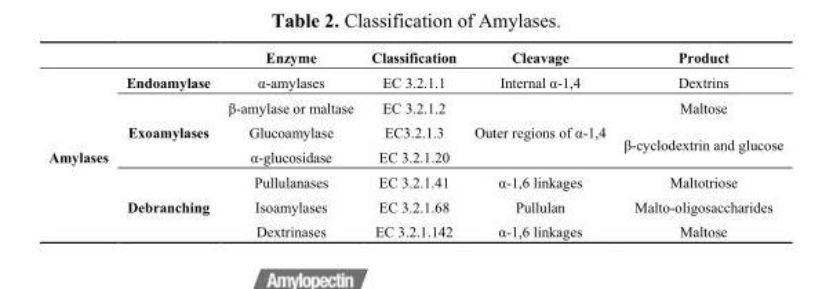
<table><thead><tr><td></td><td></td><td>Enzyme</td><td>Classification</td><td>Cleavage</td><td>Product</td></tr></thead><tbody><tr><td rowspan="7">Amylases</td><td>Endoamylase</td><td>α-amylases</td><td>EC 3.2.1.1</td><td>Internal α-1,4</td><td>Dextrins</td></tr><tr><td rowspan="3">Exoamylases</td><td>β-amylase or maltase</td><td>EC 3.2.1.2</td><td rowspan="3">Outer regions of α-1,4</td><td>Maltose</td></tr><tr><td>Glucoamylase</td><td>EC3.2.1.3</td><td rowspan="2">β-cyclodextrin and glucose</td></tr><tr><td>α-glucosidase</td><td>EC 3.2.1.20</td></tr><tr><td rowspan="3">Debranching</td><td>Pullulanases</td><td>EC 3.2.1.41</td><td>α-1,6 linkages</td><td>Maltotriose</td></tr><tr><td>Isoamylases</td><td>EC 3.2.1.68</td><td>Pullulan</td><td>Malto-oligosaccharides</td></tr><tr><td>Dextrinases</td><td>EC 3.2.1.142</td><td>α-1,6 linkages</td><td>Maltose</td></tr></tbody></table>